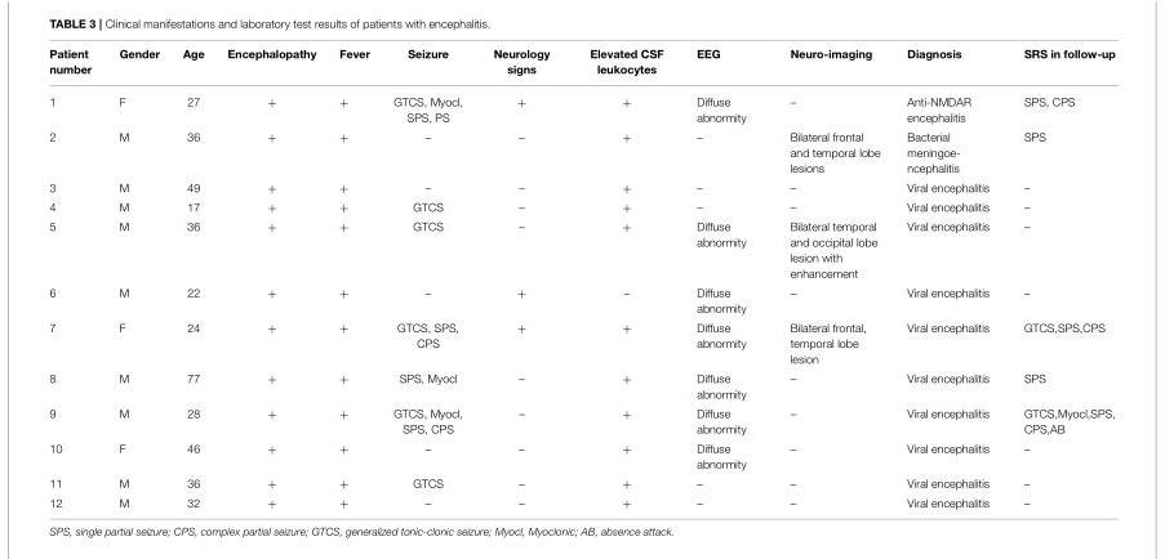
<table><thead><tr><td>Patient number</td><td>Gender</td><td>Age</td><td>Encephalopathy</td><td>Fever</td><td>Seizure</td><td>Neurology signs</td><td>Elevated CSF leukocytes</td><td>EEG</td><td>Neuro-imaging</td><td>Diagnosis</td><td>SRS in follow-up</td></tr></thead><tbody><tr><td>1</td><td>F</td><td>27</td><td>+</td><td>+</td><td>GTCS, Myocl, SPS, PS</td><td>+</td><td>+</td><td>Diffuse abnormity</td><td>–</td><td>Anti-NMDAR encephalitis</td><td>SPS, CPS</td></tr><tr><td>2</td><td>M</td><td>36</td><td>+</td><td>+</td><td>–</td><td>–</td><td>+</td><td>–</td><td>Bilateral frontal and temporal lobe lesions</td><td>Bacterial meningoe- ncephalitis</td><td>SPS</td></tr><tr><td>3</td><td>M</td><td>49</td><td>+</td><td>+</td><td>–</td><td>–</td><td>+</td><td>–</td><td>–</td><td>Viral encephalitis</td><td>–</td></tr><tr><td>4</td><td>M</td><td>17</td><td>+</td><td>+</td><td>GTCS</td><td>–</td><td>+</td><td>–</td><td>–</td><td>Viral encephalitis</td><td>–</td></tr><tr><td>5</td><td>M</td><td>36</td><td>+</td><td>+</td><td>GTCS</td><td>–</td><td>+</td><td>Diffuse abnormity</td><td>Bilateral temporal and occipital lobe lesion with enhancement</td><td>Viral encephalitis</td><td>–</td></tr><tr><td>6</td><td>M</td><td>22</td><td>+</td><td>+</td><td>–</td><td>+</td><td>–</td><td>Diffuse abnormity</td><td>–</td><td>Viral encephalitis</td><td>–</td></tr><tr><td>7</td><td>F</td><td>24</td><td>+</td><td>+</td><td>GTCS, SPS, CPS</td><td>+</td><td>+</td><td>Diffuse abnormity</td><td>Bilateral frontal, temporal lobe lesion</td><td>Viral encephalitis</td><td>GTCS,SPS,CPS</td></tr><tr><td>8</td><td>M</td><td>77</td><td>+</td><td>+</td><td>SPS, Myocl</td><td>–</td><td>+</td><td>Diffuse abnormity</td><td>–</td><td>Viral encephalitis</td><td>SPS</td></tr><tr><td>9</td><td>M</td><td>28</td><td>+</td><td>+</td><td>GTCS, Myocl, SPS, CPS</td><td>–</td><td>+</td><td>Diffuse abnormity</td><td>–</td><td>Viral encephalitis</td><td>GTCS,Myocl,SPS, CPS,AB</td></tr><tr><td>10</td><td>F</td><td>46</td><td>+</td><td>+</td><td>–</td><td>–</td><td>+</td><td>Diffuse abnormity</td><td>–</td><td>Viral encephalitis</td><td>–</td></tr><tr><td>11</td><td>M</td><td>36</td><td>+</td><td>+</td><td>GTCS</td><td>–</td><td>+</td><td>–</td><td>–</td><td>Viral encephalitis</td><td>–</td></tr><tr><td>12</td><td>M</td><td>32</td><td>+</td><td>+</td><td>–</td><td>–</td><td>+</td><td>–</td><td>–</td><td>Viral encephalitis</td><td>–</td></tr></tbody></table>